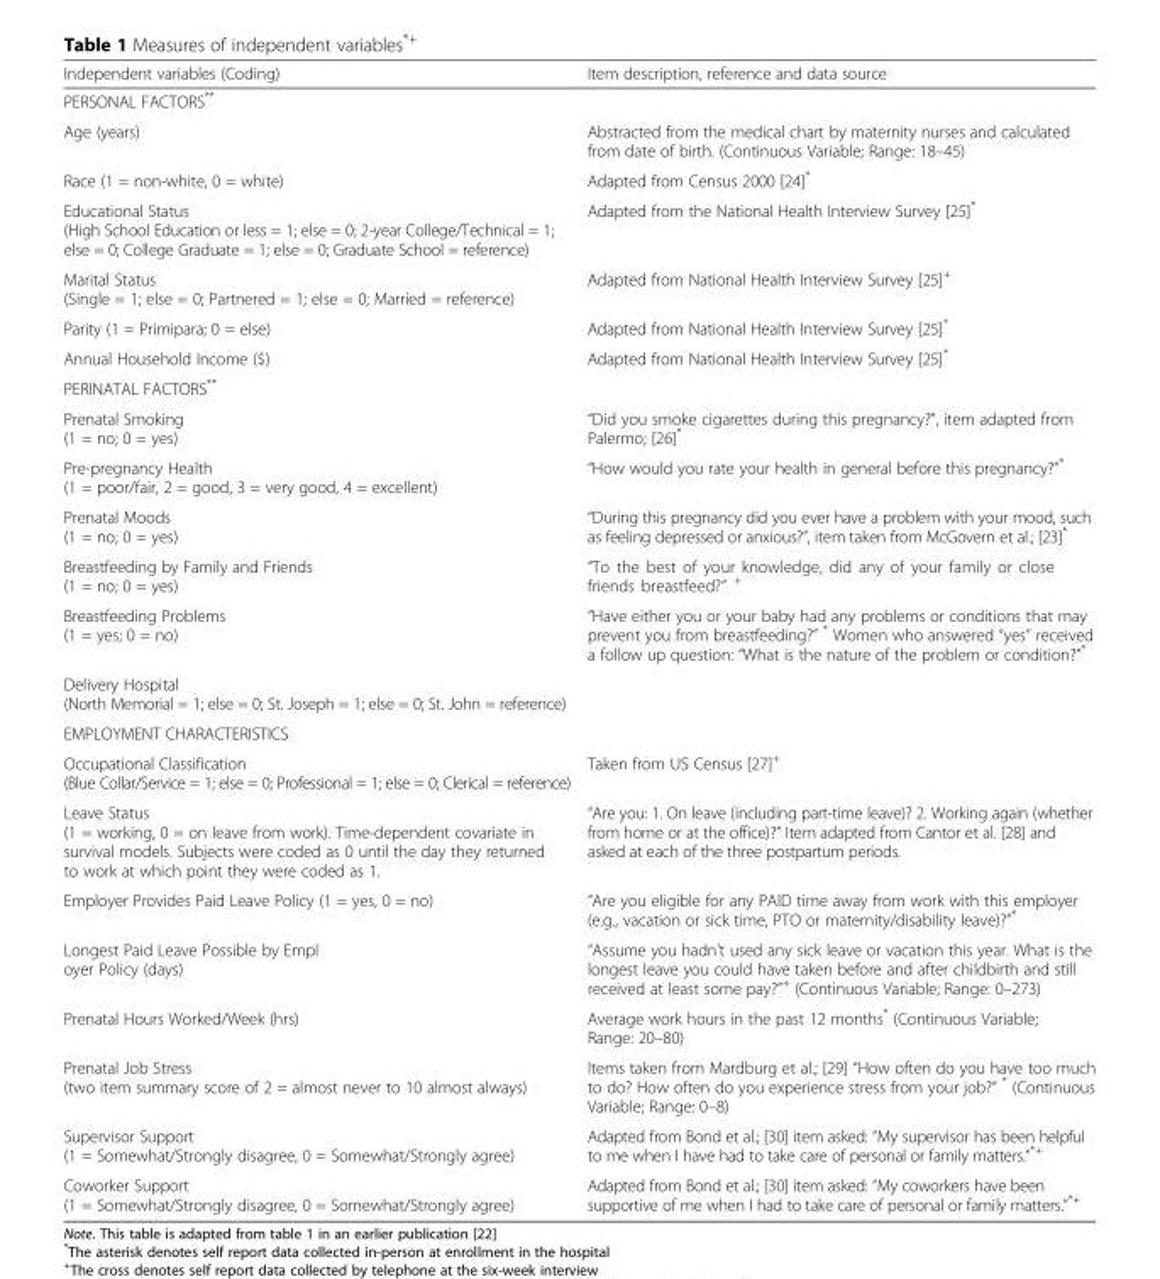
<table><thead><tr><td>Independent variables (Coding)</td><td>Item description, reference and data source</td></tr></thead><tbody><tr><td colspan="2">PERSONAL FACTORS**</td></tr><tr><td>Age (years)</td><td>Abstracted from the medical chart by maternity nurses and calculated from date of birth. (Continuous Variable; Range: 18–45)</td></tr><tr><td>Race (1 = non-white, 0 = white)</td><td>Adapted from Census 2000 [24]*</td></tr><tr><td>Educational Status (High School Education or less = 1; else = 0; 2-year College/Technical = 1; else = 0; College Graduate = 1; else = 0; Graduate School = reference)</td><td>Adapted from the National Health Interview Survey [25]*</td></tr><tr><td>Marital Status (Single = 1; else = 0; Partnered = 1; else = 0; Married = reference)</td><td>Adapted from National Health Interview Survey [25]<sup>+</sup></td></tr><tr><td>Parity (1 = Primipara; 0 = else)</td><td>Adapted from National Health Interview Survey [25]*</td></tr><tr><td>Annual Household Income ($)</td><td>Adapted from National Health Interview Survey [25]*</td></tr><tr><td colspan="2">PERINATAL FACTORS**</td></tr><tr><td>Prenatal Smoking (1 = no; 0 = yes)</td><td>“Did you smoke cigarettes during this pregnancy?”, item adapted from Palermo; [26]*</td></tr><tr><td>Pre-pregnancy Health (1 = poor/fair, 2 = good, 3 = very good, 4 = excellent)</td><td>“How would you rate your health in general before this pregnancy?”*</td></tr><tr><td>Prenatal Moods (1 = no; 0 = yes)</td><td>“During this pregnancy did you ever have a problem with your mood, such as feeling depressed or anxious?”, item taken from McGovern et al.; [23]*</td></tr><tr><td>Breastfeeding by Family and Friends (1 = no; 0 = yes)</td><td>“To the best of your knowledge, did any of your family or close friends breastfeed?” <sup>+</sup></td></tr><tr><td>Breastfeeding Problems (1 = yes; 0 = no)</td><td>“Have either you or your baby had any problems or conditions that may prevent you from breastfeeding?” * Women who answered “yes” received a follow up question: “What is the nature of the problem or condition?”*</td></tr><tr><td colspan="2">Delivery Hospital (North Memorial = 1; else = 0; St. Joseph = 1; else = 0; St. John = reference)</td></tr><tr><td colspan="2">EMPLOYMENT CHARACTERISTICS</td></tr><tr><td>Occupational Classification (Blue Collar/Service = 1; else = 0; Professional = 1; else = 0; Clerical = reference)</td><td>Taken from US Census [27]<sup>+</sup></td></tr><tr><td>Leave Status (1 = working, 0 = on leave from work). Time-dependent covariate in survival models. Subjects were coded as 0 until the day they returned to work at which point they were coded as 1.</td><td>“Are you: 1. On leave (including part-time leave)? 2. Working again (whether from home or at the office)?” Item adapted from Cantor et al. [28] and asked at each of the three postpartum periods.</td></tr><tr><td>Employer Provides Paid Leave Policy (1 = yes, 0 = no)</td><td>“Are you eligible for any PAID time away from work with this employer (e.g., vacation or sick time, PTO or maternity/disability leave)?”*</td></tr><tr><td>Longest Paid Leave Possible by Empl oyer Policy (days)</td><td>“Assume you hadn’t used any sick leave or vacation this year. What is the longest leave you could have taken before and after childbirth and still received at least some pay?”<sup>+</sup> (Continuous Variable; Range: 0–273)</td></tr><tr><td>Prenatal Hours Worked/Week (hrs)</td><td>Average work hours in the past 12 months* (Continuous Variable; Range: 20–80)</td></tr><tr><td>Prenatal Job Stress (two item summary score of 2 = almost never to 10 almost always)</td><td>Items taken from Mardburg et al.; [29] “How often do you have too much to do? How often do you experience stress from your job?” * (Continuous Variable; Range: 0–8)</td></tr><tr><td>Supervisor Support (1 = Somewhat/Strongly disagree, 0 = Somewhat/Strongly agree)</td><td>Adapted from Bond et al.; [30] item asked: “My supervisor has been helpful to me when I have had to take care of personal or family matters.”<sup>*+</sup></td></tr><tr><td>Coworker Support (1 = Somewhat/Strongly disagree, 0 = Somewhat/Strongly agree)</td><td>Adapted from Bond et al.; [30] item asked: “My coworkers have been supportive of me when I had to take care of personal or family matters.”<sup>*+</sup></td></tr></tbody></table>